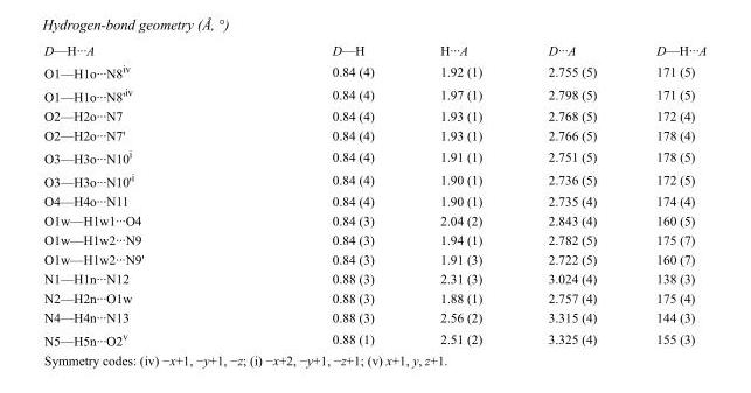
<table><tbody><tr><td>D—H···A</td><td>D—H</td><td>H···A</td><td>D···A</td><td>D—H···A</td></tr><tr><td>O1—H1o···N8<sup>iv</sup></td><td>0.84 (4)</td><td>1.92 (1)</td><td>2.755 (5)</td><td>171 (5)</td></tr><tr><td>O1—H1o···N8&#x27;<sup>iv</sup></td><td>0.84 (4)</td><td>1.97 (1)</td><td>2.798 (5)</td><td>171 (5)</td></tr><tr><td>O2—H2o···N7</td><td>0.84 (4)</td><td>1.93 (1)</td><td>2.768 (5)</td><td>172 (4)</td></tr><tr><td>O2—H2o···N7&#x27;</td><td>0.84 (4)</td><td>1.93 (1)</td><td>2.766 (5)</td><td>178 (4)</td></tr><tr><td>O3—H3o···N10<sup>i</sup></td><td>0.84 (4)</td><td>1.91 (1)</td><td>2.751 (5)</td><td>178 (5)</td></tr><tr><td>O3—H3o···N10&#x27;<sup>i</sup></td><td>0.84 (4)</td><td>1.90 (1)</td><td>2.736 (5)</td><td>172 (5)</td></tr><tr><td>O4—H4o···N11</td><td>0.84 (4)</td><td>1.90 (1)</td><td>2.735 (4)</td><td>174 (4)</td></tr><tr><td>O1w—H1w1···O4</td><td>0.84 (3)</td><td>2.04 (2)</td><td>2.843 (4)</td><td>160 (5)</td></tr><tr><td>O1w—H1w2···N9</td><td>0.84 (3)</td><td>1.94 (1)</td><td>2.782 (5)</td><td>175 (7)</td></tr><tr><td>O1w—H1w2···N9&#x27;</td><td>0.84 (3)</td><td>1.91 (3)</td><td>2.722 (5)</td><td>160 (7)</td></tr><tr><td>N1—H1n···N12</td><td>0.88 (3)</td><td>2.31 (3)</td><td>3.024 (4)</td><td>138 (3)</td></tr><tr><td>N2—H2n···O1w</td><td>0.88 (3)</td><td>1.88 (1)</td><td>2.757 (4)</td><td>175 (4)</td></tr><tr><td>N4—H4n···N13</td><td>0.88 (3)</td><td>2.56 (2)</td><td>3.315 (4)</td><td>144 (3)</td></tr><tr><td>N5—H5n···O2<sup>v</sup></td><td>0.88 (1)</td><td>2.51 (2)</td><td>3.325 (4)</td><td>155 (3)</td></tr></tbody></table>